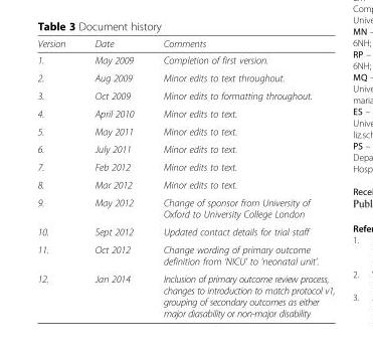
<table><thead><tr><td>Version</td><td>Date</td><td>Comments</td></tr></thead><tbody><tr><td>1.</td><td>May 2009</td><td>Completion of first version.</td></tr><tr><td>2.</td><td>Aug 2009</td><td>Minor edits to text throughout.</td></tr><tr><td>3.</td><td>Oct 2009</td><td>Minor edits to formatting throughout.</td></tr><tr><td>4.</td><td>April 2010</td><td>Minor edits to text.</td></tr><tr><td>5.</td><td>May 2011</td><td>Minor edits to text.</td></tr><tr><td>6.</td><td>July 2011</td><td>Minor edits to text.</td></tr><tr><td>7.</td><td>Feb 2012</td><td>Minor edits to text.</td></tr><tr><td>8.</td><td>Mar 2012</td><td>Minor edits to text.</td></tr><tr><td>9.</td><td>May 2012</td><td>Change of sponsor from University of Oxford to University College London</td></tr><tr><td>10.</td><td>Sept 2012</td><td>Updated contact details for trial staff</td></tr><tr><td>11.</td><td>Oct 2012</td><td>Change wording of primary outcome definition from ‘NICU’ to ‘neonatal unit’.</td></tr><tr><td>12.</td><td>Jan 2014</td><td>Inclusion of primary outcome review process, changes to introduction to match protocol v1, grouping of secondary outcomes as either major diasability or non-major disability</td></tr></tbody></table>